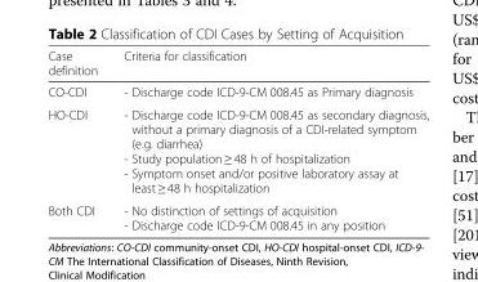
<table><thead><tr><td>Case definition</td><td>Criteria for classification</td></tr></thead><tbody><tr><td>CO-CDI</td><td>- Discharge code ICD-9-CM 008.45 as Primary diagnosis</td></tr><tr><td>HO-CDI</td><td>- Discharge code ICD-9-CM 008.45 as secondary diagnosis, without a primary diagnosis of a CDI-related symptom (e.g. diarrhea) - Study population ≥ 48 h of hospitalization - Symptom onset and/or positive laboratory assay at least ≥ 48 h hospitalization</td></tr><tr><td>Both CDI</td><td>- No distinction of settings of acquisition - Discharge code ICD-9-CM 008.45 in any position</td></tr></tbody></table>